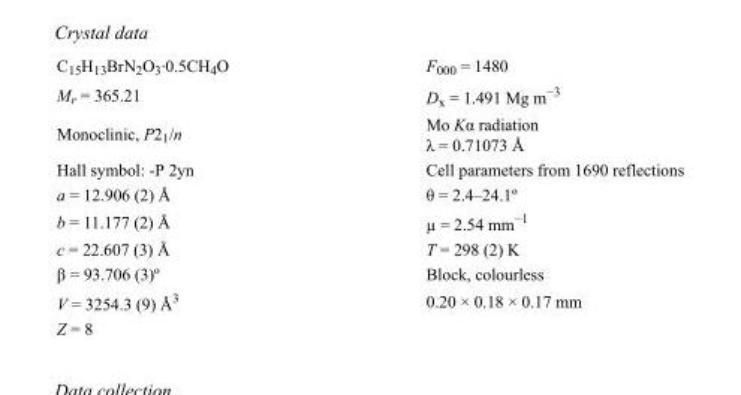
<table><tbody><tr><td>C<sub>15</sub>H<sub>13</sub>BrN<sub>2</sub>O<sub>3</sub>·0.5CH<sub>4</sub>O</td><td>F<sub>000</sub> = 1480</td></tr><tr><td>M<sub>r</sub> = 365.21</td><td>D<sub>x</sub> = 1.491 Mg m<sup>−3</sup></td></tr><tr><td>Monoclinic, P2<sub>1</sub>/n</td><td>Mo Kα radiation λ = 0.71073 Å</td></tr><tr><td>Hall symbol: -P 2yn</td><td>Cell parameters from 1690 reflections</td></tr><tr><td>a = 12.906 (2) Å</td><td>θ = 2.4–24.1º</td></tr><tr><td>b = 11.177 (2) Å</td><td>µ = 2.54 mm<sup>−1</sup></td></tr><tr><td>c = 22.607 (3) Å</td><td>T = 298 (2) K</td></tr><tr><td>β = 93.706 (3)º</td><td>Block, colourless</td></tr><tr><td>V = 3254.3 (9) Å<sup>3</sup></td><td>0.20 × 0.18 × 0.17 mm</td></tr><tr><td>Z = 8</td><td></td></tr></tbody></table>